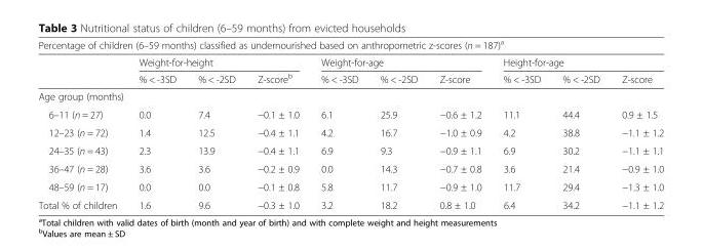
<table><thead><tr><td colspan="10">Percentage of children (6–59 months) classified as undernourished based on anthropometric z-scores (n = 187)<sup>a</sup></td></tr><tr><td rowspan="2"></td><td colspan="3">Weight-for-height</td><td colspan="3">Weight-for-age</td><td colspan="3">Height-for-age</td></tr><tr><td>% &lt; -3SD</td><td>% &lt; -2SD</td><td>Z-score<sup>b</sup></td><td>% &lt; -3SD</td><td>% &lt; -2SD</td><td>Z-score</td><td>% &lt; -3SD</td><td>% &lt; -2SD</td><td>Z-score</td></tr></thead><tbody><tr><td colspan="10">Age group (months)</td></tr><tr><td>6–11 (n = 27)</td><td>0.0</td><td>7.4</td><td>−0.1 ± 1.0</td><td>6.1</td><td>25.9</td><td>−0.6 ± 1.2</td><td>11.1</td><td>44.4</td><td>0.9 ± 1.5</td></tr><tr><td>12–23 (n = 72)</td><td>1.4</td><td>12.5</td><td>−0.4 ± 1.1</td><td>4.2</td><td>16.7</td><td>−1.0 ± 0.9</td><td>4.2</td><td>38.8</td><td>−1.1 ± 1.2</td></tr><tr><td>24–35 (n = 43)</td><td>2.3</td><td>13.9</td><td>−0.4 ± 1.1</td><td>6.9</td><td>9.3</td><td>−0.9 ± 1.1</td><td>6.9</td><td>30.2</td><td>−1.1 ± 1.1</td></tr><tr><td>36–47 (n = 28)</td><td>3.6</td><td>3.6</td><td>−0.2 ± 0.9</td><td>0.0</td><td>14.3</td><td>−0.7 ± 0.8</td><td>3.6</td><td>21.4</td><td>−0.9 ± 1.0</td></tr><tr><td>48–59 (n = 17)</td><td>0.0</td><td>0.0</td><td>−0.1 ± 0.8</td><td>5.8</td><td>11.7</td><td>−0.9 ± 1.0</td><td>11.7</td><td>29.4</td><td>−1.3 ± 1.0</td></tr><tr><td>Total % of children</td><td>1.6</td><td>9.6</td><td>−0.3 ± 1.0</td><td>3.2</td><td>18.2</td><td>0.8 ± 1.0</td><td>6.4</td><td>34.2</td><td>−1.1 ± 1.2</td></tr></tbody></table>